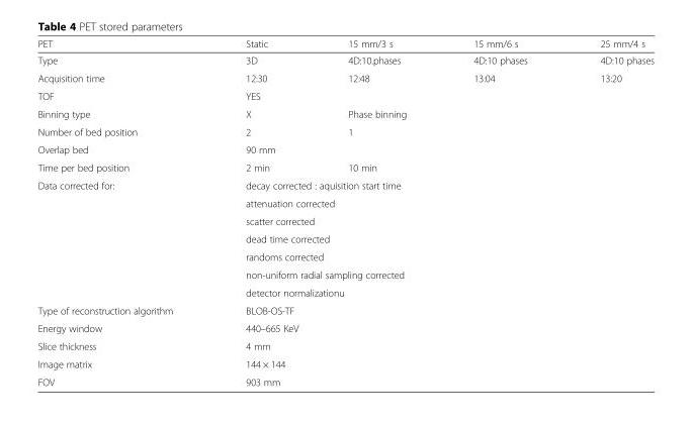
<table><thead><tr><td>PET</td><td>Static</td><td>15 mm/3 s</td><td>15 mm/6 s</td><td>25 mm/4 s</td></tr></thead><tbody><tr><td>Type</td><td>3D</td><td>4D:10.phases</td><td>4D:10 phases</td><td>4D:10 phases</td></tr><tr><td>Acquisition time</td><td>12:30</td><td>12:48</td><td>13:04</td><td>13:20</td></tr><tr><td>TOF</td><td colspan="4">YES</td></tr><tr><td>Binning type</td><td>X</td><td colspan="3">Phase binning</td></tr><tr><td>Number of bed position</td><td>2</td><td colspan="3">1</td></tr><tr><td>Overlap bed</td><td>90 mm</td><td colspan="3"></td></tr><tr><td>Time per bed position</td><td>2 min</td><td colspan="3">10 min</td></tr><tr><td rowspan="7">Data corrected for:</td><td colspan="4">decay corrected : aquisition start time</td></tr><tr><td colspan="4">attenuation corrected</td></tr><tr><td colspan="4">scatter corrected</td></tr><tr><td colspan="4">dead time corrected</td></tr><tr><td colspan="4">randoms corrected</td></tr><tr><td colspan="4">non-uniform radial sampling corrected</td></tr><tr><td colspan="4">detector normalizationu</td></tr><tr><td>Type of reconstruction algorithm</td><td colspan="4">BLOB-OS-TF</td></tr><tr><td>Energy window</td><td colspan="4">440–665 KeV</td></tr><tr><td>Slice thickness</td><td colspan="4">4 mm</td></tr><tr><td>Image matrix</td><td colspan="4">144 × 144</td></tr><tr><td>FOV</td><td colspan="4">903 mm</td></tr></tbody></table>